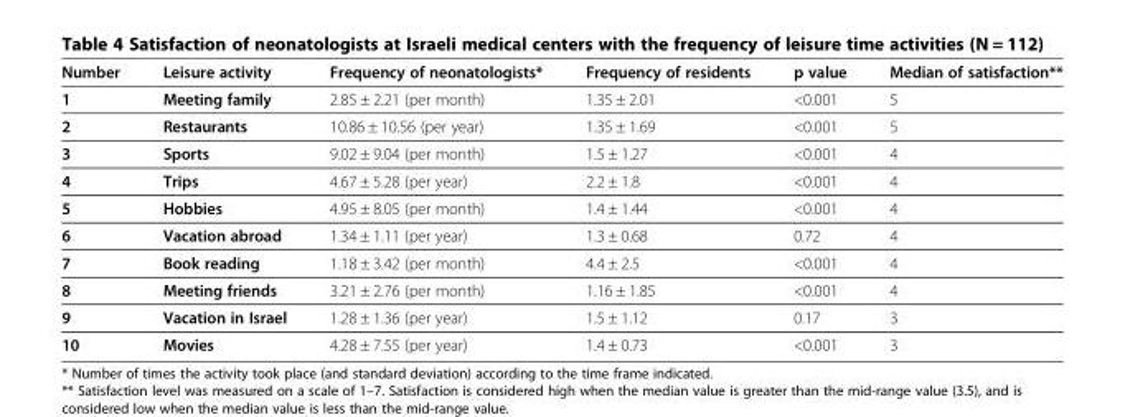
<table><thead><tr><td>Number</td><td>Leisure activity</td><td>Frequency of neonatologists*</td><td>Frequency of residents</td><td>p value</td><td>Median of satisfaction**</td></tr></thead><tbody><tr><td>1</td><td>Meeting family</td><td>2.85 ± 2.21 (per month)</td><td>1.35 ± 2.01</td><td>&lt;0.001</td><td>5</td></tr><tr><td>2</td><td>Restaurants</td><td>10.86 ± 10.56 (per year)</td><td>1.35 ± 1.69</td><td>&lt;0.001</td><td>5</td></tr><tr><td>3</td><td>Sports</td><td>9.02 ± 9.04 (per month)</td><td>1.5 ± 1.27</td><td>&lt;0.001</td><td>4</td></tr><tr><td>4</td><td>Trips</td><td>4.67 ± 5.28 (per year)</td><td>2.2 ± 1.8</td><td>&lt;0.001</td><td>4</td></tr><tr><td>5</td><td>Hobbies</td><td>4.95 ± 8.05 (per month)</td><td>1.4 ± 1.44</td><td>&lt;0.001</td><td>4</td></tr><tr><td>6</td><td>Vacation abroad</td><td>1.34 ± 1.11 (per year)</td><td>1.3 ± 0.68</td><td>0.72</td><td>4</td></tr><tr><td>7</td><td>Book reading</td><td>1.18 ± 3.42 (per month)</td><td>4.4 ± 2.5</td><td>&lt;0.001</td><td>4</td></tr><tr><td>8</td><td>Meeting friends</td><td>3.21 ± 2.76 (per month)</td><td>1.16 ± 1.85</td><td>&lt;0.001</td><td>4</td></tr><tr><td>9</td><td>Vacation in Israel</td><td>1.28 ± 1.36 (per year)</td><td>1.5 ± 1.12</td><td>0.17</td><td>3</td></tr><tr><td>10</td><td>Movies</td><td>4.28 ± 7.55 (per year)</td><td>1.4 ± 0.73</td><td>&lt;0.001</td><td>3</td></tr></tbody></table>